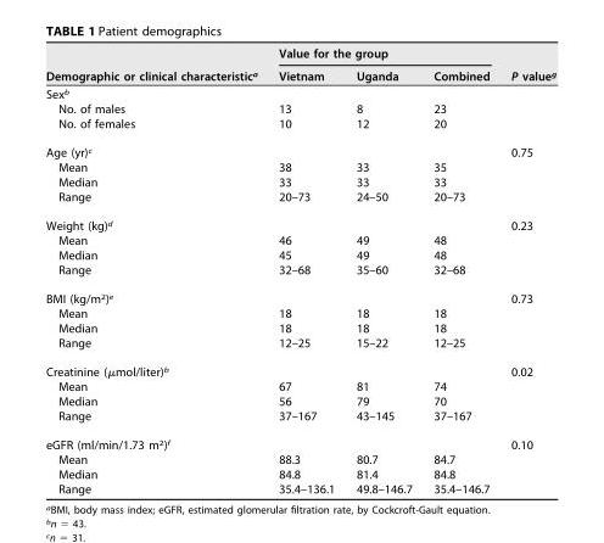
<table><thead><tr><td rowspan="2">Demographic or clinical characteristic<sup>a</sup></td><td colspan="3">Value for the group</td><td rowspan="2">P value<sup>g</sup></td></tr><tr><td>Vietnam</td><td>Uganda</td><td>Combined</td></tr></thead><tbody><tr><td colspan="5">Sex<sup>b</sup></td></tr><tr><td>No. of males</td><td>13</td><td>8</td><td>23</td><td></td></tr><tr><td>No. of females</td><td>10</td><td>12</td><td>20</td><td></td></tr><tr><td>Age (yr)<sup>c</sup></td><td></td><td></td><td></td><td>0.75</td></tr><tr><td>Mean</td><td>38</td><td>33</td><td>35</td><td></td></tr><tr><td>Median</td><td>33</td><td>33</td><td>33</td><td></td></tr><tr><td>Range</td><td>20–73</td><td>24–50</td><td>20–73</td><td></td></tr><tr><td>Weight (kg)<sup>d</sup></td><td></td><td></td><td></td><td>0.23</td></tr><tr><td>Mean</td><td>46</td><td>49</td><td>48</td><td></td></tr><tr><td>Median</td><td>45</td><td>49</td><td>48</td><td></td></tr><tr><td>Range</td><td>32–68</td><td>35–60</td><td>32–68</td><td></td></tr><tr><td>BMI (kg/m<sup>2</sup>)<sup>e</sup></td><td></td><td></td><td></td><td>0.73</td></tr><tr><td>Mean</td><td>18</td><td>18</td><td>18</td><td></td></tr><tr><td>Median</td><td>18</td><td>18</td><td>18</td><td></td></tr><tr><td>Range</td><td>12–25</td><td>15–22</td><td>12–25</td><td></td></tr><tr><td>Creatinine (μmol/liter)<sup>b</sup></td><td></td><td></td><td></td><td>0.02</td></tr><tr><td>Mean</td><td>67</td><td>81</td><td>74</td><td></td></tr><tr><td>Median</td><td>56</td><td>79</td><td>70</td><td></td></tr><tr><td>Range</td><td>37–167</td><td>43–145</td><td>37–167</td><td></td></tr><tr><td>eGFR (ml/min/1.73 m<sup>2</sup>)<sup>f</sup></td><td></td><td></td><td></td><td>0.10</td></tr><tr><td>Mean</td><td>88.3</td><td>80.7</td><td>84.7</td><td></td></tr><tr><td>Median</td><td>84.8</td><td>81.4</td><td>84.8</td><td></td></tr><tr><td>Range</td><td>35.4–136.1</td><td>49.8–146.7</td><td>35.4–146.7</td><td></td></tr></tbody></table>